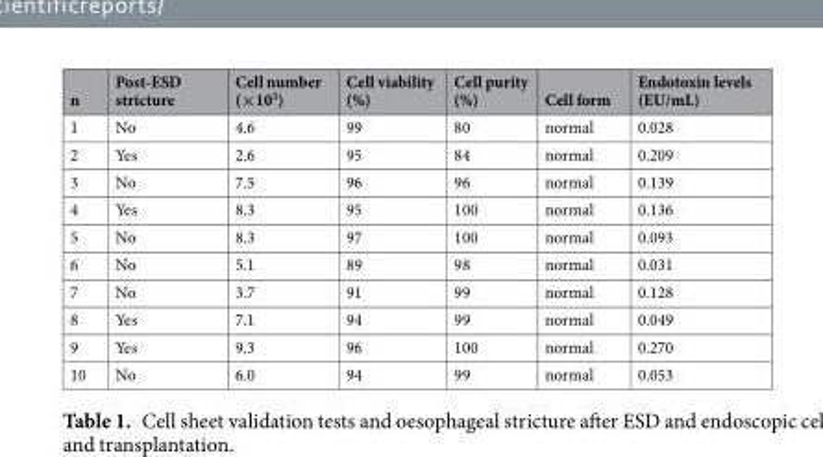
<table><thead><tr><td>n</td><td>Post-ESD stricture</td><td>Cell number (×10<sup>5</sup>)</td><td>Cell viability (%)</td><td>Cell purity (%)</td><td>Cell form</td><td>Endotoxin levels (EU/mL)</td></tr></thead><tbody><tr><td>1</td><td>No</td><td>4.6</td><td>99</td><td>80</td><td>normal</td><td>0.028</td></tr><tr><td>2</td><td>Yes</td><td>2.6</td><td>95</td><td>84</td><td>normal</td><td>0.209</td></tr><tr><td>3</td><td>No</td><td>7.5</td><td>96</td><td>96</td><td>normal</td><td>0.139</td></tr><tr><td>4</td><td>Yes</td><td>8.3</td><td>95</td><td>100</td><td>normal</td><td>0.136</td></tr><tr><td>5</td><td>No</td><td>8.3</td><td>97</td><td>100</td><td>normal</td><td>0.093</td></tr><tr><td>6</td><td>No</td><td>5.1</td><td>89</td><td>98</td><td>normal</td><td>0.031</td></tr><tr><td>7</td><td>No</td><td>3.7</td><td>91</td><td>99</td><td>normal</td><td>0.128</td></tr><tr><td>8</td><td>Yes</td><td>7.1</td><td>94</td><td>99</td><td>normal</td><td>0.049</td></tr><tr><td>9</td><td>Yes</td><td>9.3</td><td>96</td><td>100</td><td>normal</td><td>0.270</td></tr><tr><td>10</td><td>No</td><td>6.0</td><td>94</td><td>99</td><td>normal</td><td>0.053</td></tr></tbody></table>